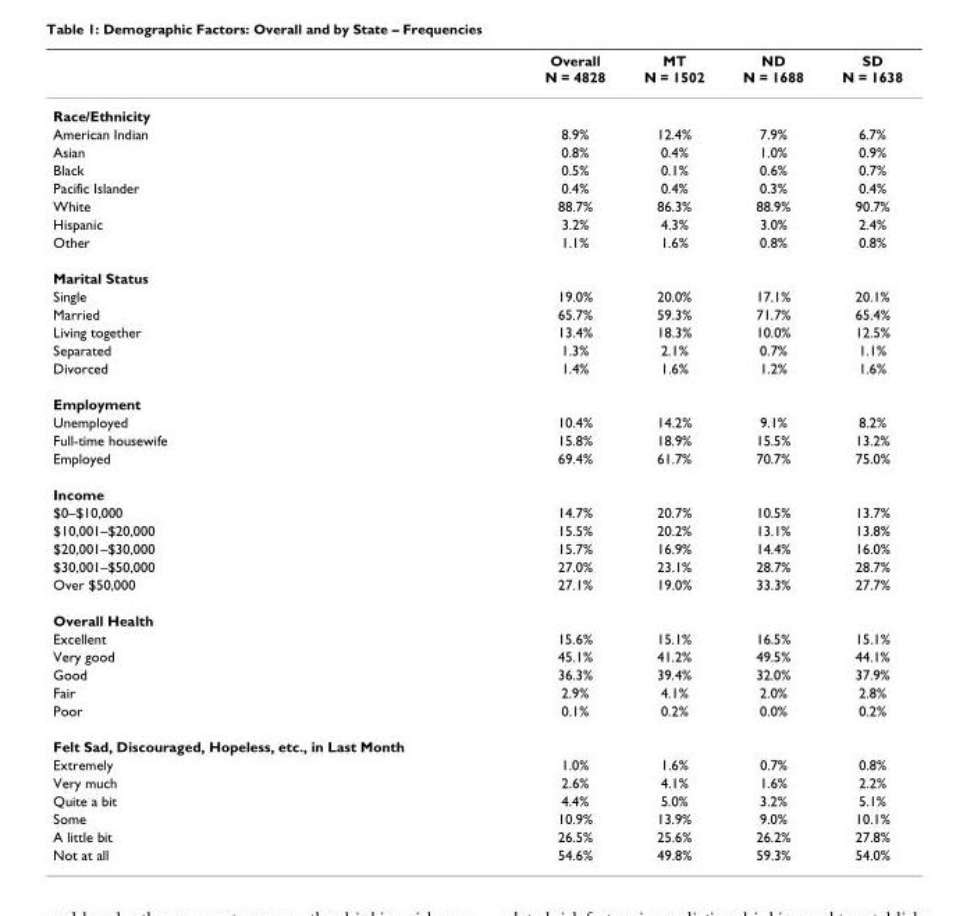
<table><thead><tr><td></td><td>Overall N = 4828</td><td>MT N = 1502</td><td>ND N = 1688</td><td>SD N = 1638</td></tr></thead><tbody><tr><td colspan="5">Race/Ethnicity</td></tr><tr><td>American Indian</td><td>8.9%</td><td>12.4%</td><td>7.9%</td><td>6.7%</td></tr><tr><td>Asian</td><td>0.8%</td><td>0.4%</td><td>1.0%</td><td>0.9%</td></tr><tr><td>Black</td><td>0.5%</td><td>0.1%</td><td>0.6%</td><td>0.7%</td></tr><tr><td>Pacific Islander</td><td>0.4%</td><td>0.4%</td><td>0.3%</td><td>0.4%</td></tr><tr><td>White</td><td>88.7%</td><td>86.3%</td><td>88.9%</td><td>90.7%</td></tr><tr><td>Hispanic</td><td>3.2%</td><td>4.3%</td><td>3.0%</td><td>2.4%</td></tr><tr><td>Other</td><td>1.1%</td><td>1.6%</td><td>0.8%</td><td>0.8%</td></tr><tr><td colspan="5">Marital Status</td></tr><tr><td>Single</td><td>19.0%</td><td>20.0%</td><td>17.1%</td><td>20.1%</td></tr><tr><td>Married</td><td>65.7%</td><td>59.3%</td><td>71.7%</td><td>65.4%</td></tr><tr><td>Living together</td><td>13.4%</td><td>18.3%</td><td>10.0%</td><td>12.5%</td></tr><tr><td>Separated</td><td>1.3%</td><td>2.1%</td><td>0.7%</td><td>1.1%</td></tr><tr><td>Divorced</td><td>1.4%</td><td>1.6%</td><td>1.2%</td><td>1.6%</td></tr><tr><td colspan="5">Employment</td></tr><tr><td>Unemployed</td><td>10.4%</td><td>14.2%</td><td>9.1%</td><td>8.2%</td></tr><tr><td>Full-time housewife</td><td>15.8%</td><td>18.9%</td><td>15.5%</td><td>13.2%</td></tr><tr><td>Employed</td><td>69.4%</td><td>61.7%</td><td>70.7%</td><td>75.0%</td></tr><tr><td colspan="5">Income</td></tr><tr><td>$0–$10,000</td><td>14.7%</td><td>20.7%</td><td>10.5%</td><td>13.7%</td></tr><tr><td>$10,001–$20,000</td><td>15.5%</td><td>20.2%</td><td>13.1%</td><td>13.8%</td></tr><tr><td>$20,001–$30,000</td><td>15.7%</td><td>16.9%</td><td>14.4%</td><td>16.0%</td></tr><tr><td>$30,001–$50,000</td><td>27.0%</td><td>23.1%</td><td>28.7%</td><td>28.7%</td></tr><tr><td>Over $50,000</td><td>27.1%</td><td>19.0%</td><td>33.3%</td><td>27.7%</td></tr><tr><td colspan="5">Overall Health</td></tr><tr><td>Excellent</td><td>15.6%</td><td>15.1%</td><td>16.5%</td><td>15.1%</td></tr><tr><td>Very good</td><td>45.1%</td><td>41.2%</td><td>49.5%</td><td>44.1%</td></tr><tr><td>Good</td><td>36.3%</td><td>39.4%</td><td>32.0%</td><td>37.9%</td></tr><tr><td>Fair</td><td>2.9%</td><td>4.1%</td><td>2.0%</td><td>2.8%</td></tr><tr><td>Poor</td><td>0.1%</td><td>0.2%</td><td>0.0%</td><td>0.2%</td></tr><tr><td colspan="5">Felt Sad, Discouraged, Hopeless, etc., in Last Month</td></tr><tr><td>Extremely</td><td>1.0%</td><td>1.6%</td><td>0.7%</td><td>0.8%</td></tr><tr><td>Very much</td><td>2.6%</td><td>4.1%</td><td>1.6%</td><td>2.2%</td></tr><tr><td>Quite a bit</td><td>4.4%</td><td>5.0%</td><td>3.2%</td><td>5.1%</td></tr><tr><td>Some</td><td>10.9%</td><td>13.9%</td><td>9.0%</td><td>10.1%</td></tr><tr><td>A little bit</td><td>26.5%</td><td>25.6%</td><td>26.2%</td><td>27.8%</td></tr><tr><td>Not at all</td><td>54.6%</td><td>49.8%</td><td>59.3%</td><td>54.0%</td></tr></tbody></table>